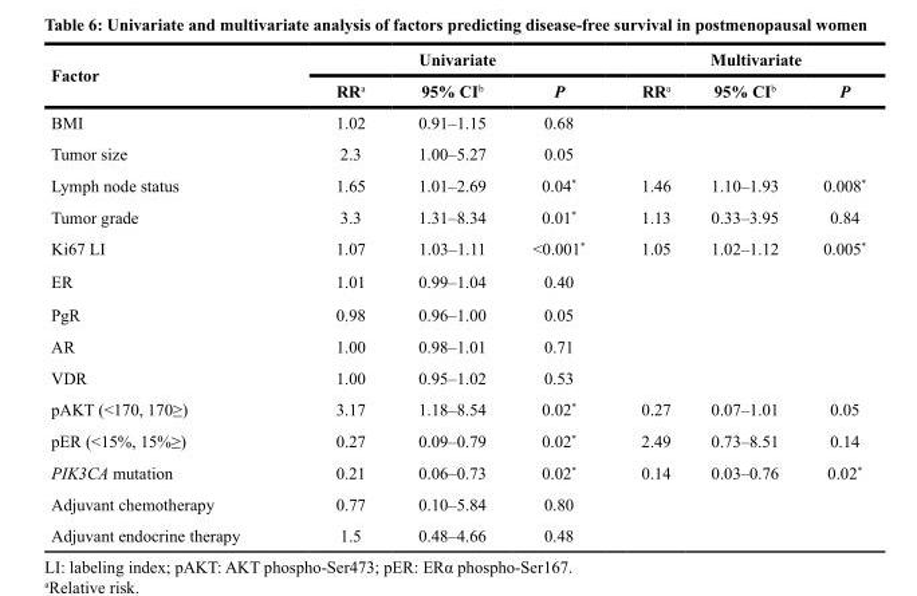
<table><thead><tr><td rowspan="2">Factor</td><td colspan="3">Univariate</td><td colspan="3">Multivariate</td></tr><tr><td>RR<sup>a</sup></td><td>95% CI<sup>b</sup></td><td>P</td><td>RR<sup>a</sup></td><td>95% CI<sup>b</sup></td><td>P</td></tr></thead><tbody><tr><td>BMI</td><td>1.02</td><td>0.91–1.15</td><td>0.68</td><td></td><td></td><td></td></tr><tr><td>Tumor size</td><td>2.3</td><td>1.00–5.27</td><td>0.05</td><td></td><td></td><td></td></tr><tr><td>Lymph node status</td><td>1.65</td><td>1.01–2.69</td><td>0.04*</td><td>1.46</td><td>1.10–1.93</td><td>0.008*</td></tr><tr><td>Tumor grade</td><td>3.3</td><td>1.31–8.34</td><td>0.01*</td><td>1.13</td><td>0.33–3.95</td><td>0.84</td></tr><tr><td>Ki67 LI</td><td>1.07</td><td>1.03–1.11</td><td>&lt;0.001*</td><td>1.05</td><td>1.02–1.12</td><td>0.005*</td></tr><tr><td>ER</td><td>1.01</td><td>0.99–1.04</td><td>0.40</td><td></td><td></td><td></td></tr><tr><td>PgR</td><td>0.98</td><td>0.96–1.00</td><td>0.05</td><td></td><td></td><td></td></tr><tr><td>AR</td><td>1.00</td><td>0.98–1.01</td><td>0.71</td><td></td><td></td><td></td></tr><tr><td>VDR</td><td>1.00</td><td>0.95–1.02</td><td>0.53</td><td></td><td></td><td></td></tr><tr><td>pAKT (&lt;170, 170≥)</td><td>3.17</td><td>1.18–8.54</td><td>0.02*</td><td>0.27</td><td>0.07–1.01</td><td>0.05</td></tr><tr><td>pER (&lt;15%, 15%≥)</td><td>0.27</td><td>0.09–0.79</td><td>0.02*</td><td>2.49</td><td>0.73–8.51</td><td>0.14</td></tr><tr><td>PIK3CA mutation</td><td>0.21</td><td>0.06–0.73</td><td>0.02*</td><td>0.14</td><td>0.03–0.76</td><td>0.02*</td></tr><tr><td>Adjuvant chemotherapy</td><td>0.77</td><td>0.10–5.84</td><td>0.80</td><td></td><td></td><td></td></tr><tr><td>Adjuvant endocrine therapy</td><td>1.5</td><td>0.48–4.66</td><td>0.48</td><td></td><td></td><td></td></tr></tbody></table>